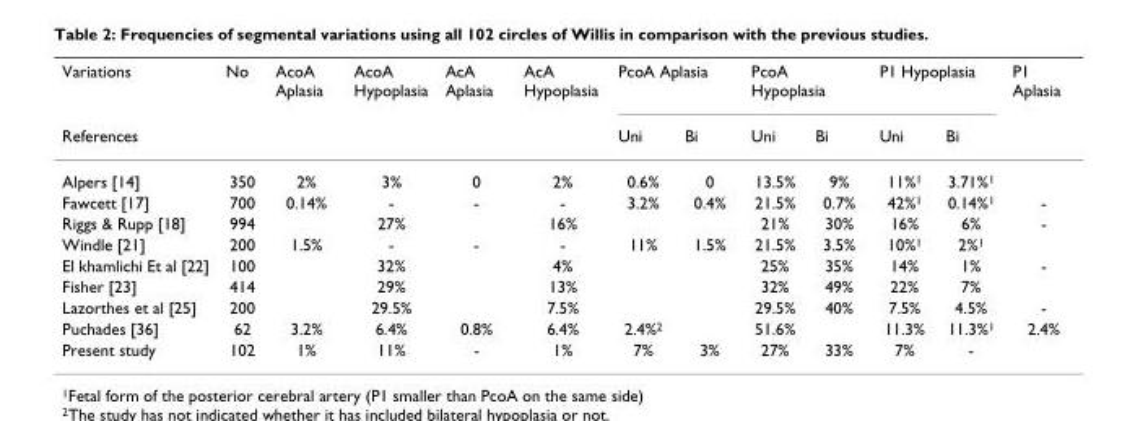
<table><thead><tr><td rowspan="2">Variations References</td><td rowspan="2">No</td><td rowspan="2">AcoA Aplasia</td><td rowspan="2">AcoA Hypoplasia</td><td rowspan="2">AcA Aplasia</td><td rowspan="2">AcA Hypoplasia</td><td colspan="2">PcoA Aplasia</td><td colspan="2">PcoA Hypoplasia</td><td colspan="2">P1 Hypoplasia</td><td rowspan="2">P1 Aplasia</td></tr><tr><td>Uni</td><td>Bi</td><td>Uni</td><td>Bi</td><td>Uni</td><td>Bi</td></tr></thead><tbody><tr><td>Alpers [14]</td><td>350</td><td>2%</td><td>3%</td><td>0</td><td>2%</td><td>0.6%</td><td>0</td><td>13.5%</td><td>9%</td><td>11%1</td><td>3.71%1</td><td></td></tr><tr><td>Fawcett [17]</td><td>700</td><td>0.14%</td><td>-</td><td>-</td><td>-</td><td>3.2%</td><td>0.4%</td><td>21.5%</td><td>0.7%</td><td>42%1</td><td>0.14%1</td><td>-</td></tr><tr><td>Riggs &amp; Rupp [18]</td><td>994</td><td></td><td>27%</td><td></td><td>16%</td><td></td><td></td><td>21%</td><td>30%</td><td>16%</td><td>6%</td><td>-</td></tr><tr><td>Windle [21]</td><td>200</td><td>1.5%</td><td>-</td><td>-</td><td>-</td><td>11%</td><td>1.5%</td><td>21.5%</td><td>3.5%</td><td>10%1</td><td>2%1</td><td></td></tr><tr><td>El khamlichi Et al [22]</td><td>100</td><td></td><td>32%</td><td></td><td>4%</td><td></td><td></td><td>25%</td><td>35%</td><td>14%</td><td>1%</td><td>-</td></tr><tr><td>Fisher [23]</td><td>414</td><td></td><td>29%</td><td></td><td>13%</td><td></td><td></td><td>32%</td><td>49%</td><td>22%</td><td>7%</td><td></td></tr><tr><td>Lazorthes et al [25]</td><td>200</td><td></td><td>29.5%</td><td></td><td>7.5%</td><td></td><td></td><td>29.5%</td><td>40%</td><td>7.5%</td><td>4.5%</td><td>-</td></tr><tr><td>Puchades [36]</td><td>62</td><td>3.2%</td><td>6.4%</td><td>0.8%</td><td>6.4%</td><td>2.4%2</td><td></td><td>51.6%</td><td></td><td>11.3%</td><td>11.3%1</td><td>2.4%</td></tr><tr><td>Present study</td><td>102</td><td>1%</td><td>11%</td><td>-</td><td>1%</td><td>7%</td><td>3%</td><td>27%</td><td>33%</td><td>7%</td><td>-</td><td></td></tr></tbody></table>